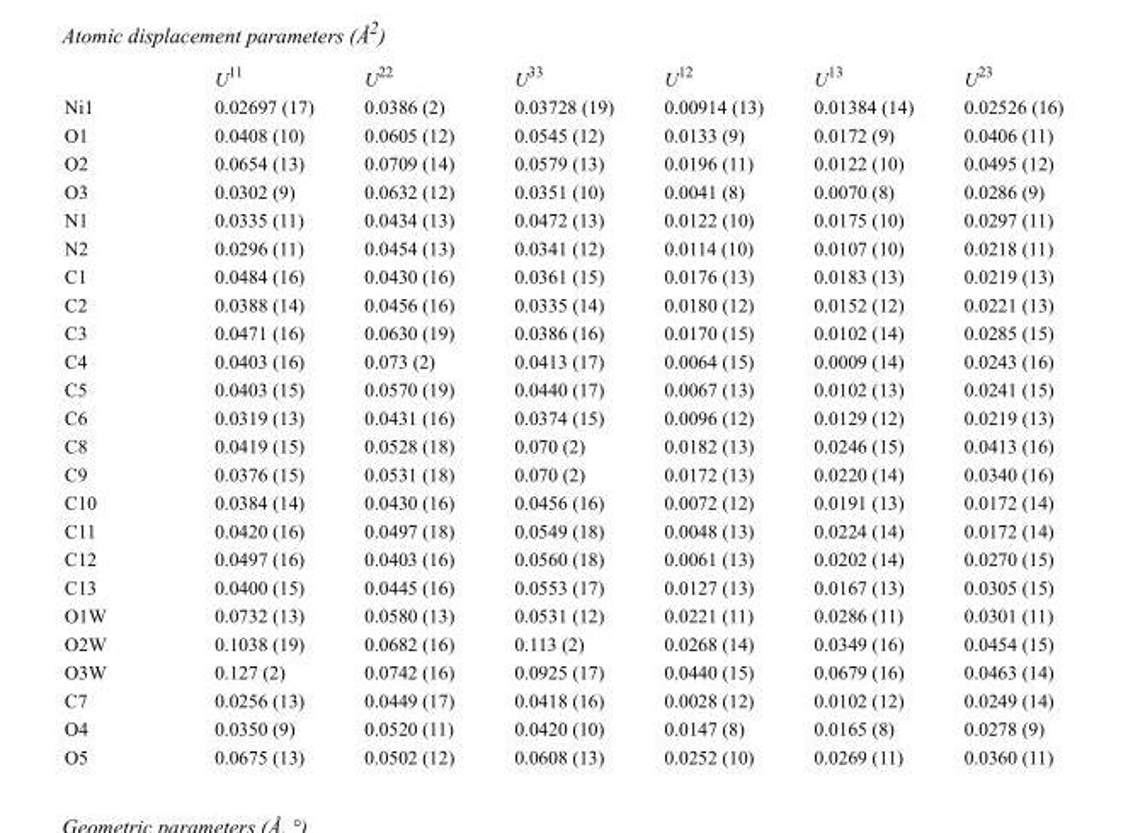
<table><thead><tr><td></td><td>U<sup>11</sup></td><td>U<sup>22</sup></td><td>U<sup>33</sup></td><td>U<sup>12</sup></td><td>U<sup>13</sup></td><td>U<sup>23</sup></td></tr></thead><tbody><tr><td>Ni1</td><td>0.02697 (17)</td><td>0.0386 (2)</td><td>0.03728 (19)</td><td>0.00914 (13)</td><td>0.01384 (14)</td><td>0.02526 (16)</td></tr><tr><td>O1</td><td>0.0408 (10)</td><td>0.0605 (12)</td><td>0.0545 (12)</td><td>0.0133 (9)</td><td>0.0172 (9)</td><td>0.0406 (11)</td></tr><tr><td>O2</td><td>0.0654 (13)</td><td>0.0709 (14)</td><td>0.0579 (13)</td><td>0.0196 (11)</td><td>0.0122 (10)</td><td>0.0495 (12)</td></tr><tr><td>O3</td><td>0.0302 (9)</td><td>0.0632 (12)</td><td>0.0351 (10)</td><td>0.0041 (8)</td><td>0.0070 (8)</td><td>0.0286 (9)</td></tr><tr><td>N1</td><td>0.0335 (11)</td><td>0.0434 (13)</td><td>0.0472 (13)</td><td>0.0122 (10)</td><td>0.0175 (10)</td><td>0.0297 (11)</td></tr><tr><td>N2</td><td>0.0296 (11)</td><td>0.0454 (13)</td><td>0.0341 (12)</td><td>0.0114 (10)</td><td>0.0107 (10)</td><td>0.0218 (11)</td></tr><tr><td>C1</td><td>0.0484 (16)</td><td>0.0430 (16)</td><td>0.0361 (15)</td><td>0.0176 (13)</td><td>0.0183 (13)</td><td>0.0219 (13)</td></tr><tr><td>C2</td><td>0.0388 (14)</td><td>0.0456 (16)</td><td>0.0335 (14)</td><td>0.0180 (12)</td><td>0.0152 (12)</td><td>0.0221 (13)</td></tr><tr><td>C3</td><td>0.0471 (16)</td><td>0.0630 (19)</td><td>0.0386 (16)</td><td>0.0170 (15)</td><td>0.0102 (14)</td><td>0.0285 (15)</td></tr><tr><td>C4</td><td>0.0403 (16)</td><td>0.073 (2)</td><td>0.0413 (17)</td><td>0.0064 (15)</td><td>0.0009 (14)</td><td>0.0243 (16)</td></tr><tr><td>C5</td><td>0.0403 (15)</td><td>0.0570 (19)</td><td>0.0440 (17)</td><td>0.0067 (13)</td><td>0.0102 (13)</td><td>0.0241 (15)</td></tr><tr><td>C6</td><td>0.0319 (13)</td><td>0.0431 (16)</td><td>0.0374 (15)</td><td>0.0096 (12)</td><td>0.0129 (12)</td><td>0.0219 (13)</td></tr><tr><td>C8</td><td>0.0419 (15)</td><td>0.0528 (18)</td><td>0.070 (2)</td><td>0.0182 (13)</td><td>0.0246 (15)</td><td>0.0413 (16)</td></tr><tr><td>C9</td><td>0.0376 (15)</td><td>0.0531 (18)</td><td>0.070 (2)</td><td>0.0172 (13)</td><td>0.0220 (14)</td><td>0.0340 (16)</td></tr><tr><td>C10</td><td>0.0384 (14)</td><td>0.0430 (16)</td><td>0.0456 (16)</td><td>0.0072 (12)</td><td>0.0191 (13)</td><td>0.0172 (14)</td></tr><tr><td>C11</td><td>0.0420 (16)</td><td>0.0497 (18)</td><td>0.0549 (18)</td><td>0.0048 (13)</td><td>0.0224 (14)</td><td>0.0172 (14)</td></tr><tr><td>C12</td><td>0.0497 (16)</td><td>0.0403 (16)</td><td>0.0560 (18)</td><td>0.0061 (13)</td><td>0.0202 (14)</td><td>0.0270 (15)</td></tr><tr><td>C13</td><td>0.0400 (15)</td><td>0.0445 (16)</td><td>0.0553 (17)</td><td>0.0127 (13)</td><td>0.0167 (13)</td><td>0.0305 (15)</td></tr><tr><td>O1W</td><td>0.0732 (13)</td><td>0.0580 (13)</td><td>0.0531 (12)</td><td>0.0221 (11)</td><td>0.0286 (11)</td><td>0.0301 (11)</td></tr><tr><td>O2W</td><td>0.1038 (19)</td><td>0.0682 (16)</td><td>0.113 (2)</td><td>0.0268 (14)</td><td>0.0349 (16)</td><td>0.0454 (15)</td></tr><tr><td>O3W</td><td>0.127 (2)</td><td>0.0742 (16)</td><td>0.0925 (17)</td><td>0.0440 (15)</td><td>0.0679 (16)</td><td>0.0463 (14)</td></tr><tr><td>C7</td><td>0.0256 (13)</td><td>0.0449 (17)</td><td>0.0418 (16)</td><td>0.0028 (12)</td><td>0.0102 (12)</td><td>0.0249 (14)</td></tr><tr><td>O4</td><td>0.0350 (9)</td><td>0.0520 (11)</td><td>0.0420 (10)</td><td>0.0147 (8)</td><td>0.0165 (8)</td><td>0.0278 (9)</td></tr><tr><td>O5</td><td>0.0675 (13)</td><td>0.0502 (12)</td><td>0.0608 (13)</td><td>0.0252 (10)</td><td>0.0269 (11)</td><td>0.0360 (11)</td></tr></tbody></table>